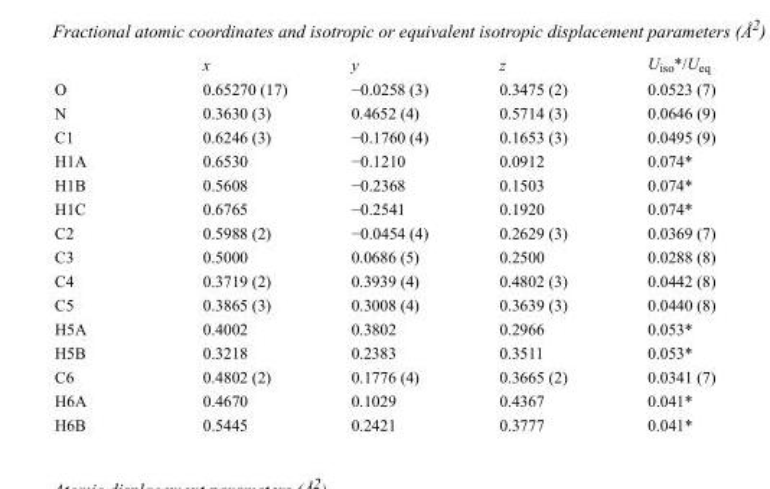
<table><thead><tr><td></td><td>x</td><td>y</td><td>z</td><td>U<sub>iso</sub>*/U<sub>eq</sub></td></tr></thead><tbody><tr><td>O</td><td>0.65270 (17)</td><td>−0.0258 (3)</td><td>0.3475 (2)</td><td>0.0523 (7)</td></tr><tr><td>N</td><td>0.3630 (3)</td><td>0.4652 (4)</td><td>0.5714 (3)</td><td>0.0646 (9)</td></tr><tr><td>C1</td><td>0.6246 (3)</td><td>−0.1760 (4)</td><td>0.1653 (3)</td><td>0.0495 (9)</td></tr><tr><td>H1A</td><td>0.6530</td><td>−0.1210</td><td>0.0912</td><td>0.074*</td></tr><tr><td>H1B</td><td>0.5608</td><td>−0.2368</td><td>0.1503</td><td>0.074*</td></tr><tr><td>H1C</td><td>0.6765</td><td>−0.2541</td><td>0.1920</td><td>0.074*</td></tr><tr><td>C2</td><td>0.5988 (2)</td><td>−0.0454 (4)</td><td>0.2629 (3)</td><td>0.0369 (7)</td></tr><tr><td>C3</td><td>0.5000</td><td>0.0686 (5)</td><td>0.2500</td><td>0.0288 (8)</td></tr><tr><td>C4</td><td>0.3719 (2)</td><td>0.3939 (4)</td><td>0.4802 (3)</td><td>0.0442 (8)</td></tr><tr><td>C5</td><td>0.3865 (3)</td><td>0.3008 (4)</td><td>0.3639 (3)</td><td>0.0440 (8)</td></tr><tr><td>H5A</td><td>0.4002</td><td>0.3802</td><td>0.2966</td><td>0.053*</td></tr><tr><td>H5B</td><td>0.3218</td><td>0.2383</td><td>0.3511</td><td>0.053*</td></tr><tr><td>C6</td><td>0.4802 (2)</td><td>0.1776 (4)</td><td>0.3665 (2)</td><td>0.0341 (7)</td></tr><tr><td>H6A</td><td>0.4670</td><td>0.1029</td><td>0.4367</td><td>0.041*</td></tr><tr><td>H6B</td><td>0.5445</td><td>0.2421</td><td>0.3777</td><td>0.041*</td></tr></tbody></table>